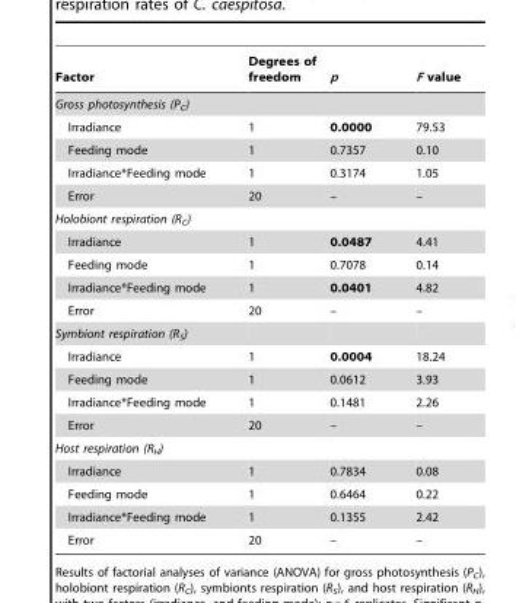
<table><thead><tr><td>Factor</td><td>Degrees of freedom</td><td>p</td><td>F value</td></tr></thead><tbody><tr><td colspan="4">Gross photosynthesis (P<sub>C</sub>)</td></tr><tr><td>Irradiance</td><td>1</td><td>0.0000</td><td>79.53</td></tr><tr><td>Feeding mode</td><td>1</td><td>0.7357</td><td>0.10</td></tr><tr><td>Irradiance*Feeding mode</td><td>1</td><td>0.3174</td><td>1.05</td></tr><tr><td>Error</td><td>20</td><td>–</td><td>–</td></tr><tr><td colspan="4">Holobiont respiration (R<sub>C</sub>)</td></tr><tr><td>Irradiance</td><td>1</td><td>0.0487</td><td>4.41</td></tr><tr><td>Feeding mode</td><td>1</td><td>0.7078</td><td>0.14</td></tr><tr><td>Irradiance*Feeding mode</td><td>1</td><td>0.0401</td><td>4.82</td></tr><tr><td>Error</td><td>20</td><td>–</td><td>–</td></tr><tr><td colspan="4">Symbiont respiration (R<sub>S</sub>)</td></tr><tr><td>Irradiance</td><td>1</td><td>0.0004</td><td>18.24</td></tr><tr><td>Feeding mode</td><td>1</td><td>0.0612</td><td>3.93</td></tr><tr><td>Irradiance*Feeding mode</td><td>1</td><td>0.1481</td><td>2.26</td></tr><tr><td>Error</td><td>20</td><td>–</td><td>–</td></tr><tr><td colspan="4">Host respiration (R<sub>H</sub>)</td></tr><tr><td>Irradiance</td><td>1</td><td>0.7834</td><td>0.08</td></tr><tr><td>Feeding mode</td><td>1</td><td>0.6464</td><td>0.22</td></tr><tr><td>Irradiance*Feeding mode</td><td>1</td><td>0.1355</td><td>2.42</td></tr><tr><td>Error</td><td>20</td><td>–</td><td>–</td></tr></tbody></table>